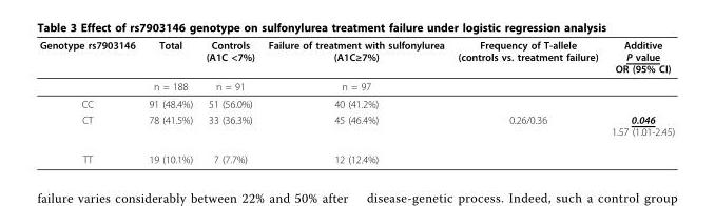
<table><thead><tr><td>Genotype rs7903146</td><td>Total</td><td>Controls (A1C &lt;7%)</td><td>Failure of treatment with sulfonylurea (A1C≥7%)</td><td>Frequency of T-allele (controls vs. treatment failure)</td><td>Additive P value OR (95% CI)</td></tr></thead><tbody><tr><td></td><td>n = 188</td><td>n = 91</td><td>n = 97</td><td></td><td></td></tr><tr><td>CC</td><td>91 (48.4%)</td><td>51 (56.0%)</td><td>40 (41.2%)</td><td></td><td></td></tr><tr><td>CT</td><td>78 (41.5%)</td><td>33 (36.3%)</td><td>45 (46.4%)</td><td>0.26/0.36</td><td>0.046 1.57 (1.01-2.45)</td></tr><tr><td>TT</td><td>19 (10.1%)</td><td>7 (7.7%)</td><td>12 (12.4%)</td><td></td><td></td></tr></tbody></table>